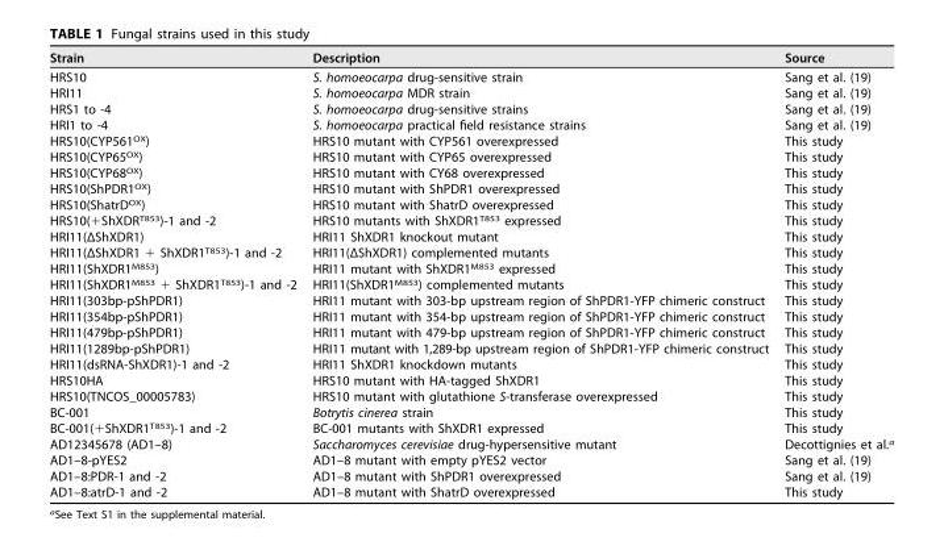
<table><thead><tr><td>Strain</td><td>Description</td><td>Source</td></tr></thead><tbody><tr><td>HRS10</td><td>S. homoeocarpa drug-sensitive strain</td><td>Sang et al. (19)</td></tr><tr><td>HRI11</td><td>S. homoeocarpa MDR strain</td><td>Sang et al. (19)</td></tr><tr><td>HRS1 to -4</td><td>S. homoeocarpa drug-sensitive strains</td><td>Sang et al. (19)</td></tr><tr><td>HRI1 to -4</td><td>S. homoeocarpa practical field resistance strains</td><td>Sang et al. (19)</td></tr><tr><td>HRS10(CYP561<sup>OX</sup>)</td><td>HRS10 mutant with CYP561 overexpressed</td><td>This study</td></tr><tr><td>HRS10(CYP65<sup>OX</sup>)</td><td>HRS10 mutant with CYP65 overexpressed</td><td>This study</td></tr><tr><td>HRS10(CYP68<sup>OX</sup>)</td><td>HRS10 mutant with CY68 overexpressed</td><td>This study</td></tr><tr><td>HRS10(ShPDR1<sup>OX</sup>)</td><td>HRS10 mutant with ShPDR1 overexpressed</td><td>This study</td></tr><tr><td>HRS10(ShatrD<sup>OX</sup>)</td><td>HRS10 mutant with ShatrD overexpressed</td><td>This study</td></tr><tr><td>HRS10(+ShXDR<sup>T853</sup>)-1 and -2</td><td>HRS10 mutants with ShXDR1<sup>T853</sup> expressed</td><td>This study</td></tr><tr><td>HRI11(ΔShXDR1)</td><td>HRI11 ShXDR1 knockout mutant</td><td>This study</td></tr><tr><td>HRI11(ΔShXDR1 + ShXDR1T853)-1 and -2</td><td>HRI11(ΔShXDR1) complemented mutants</td><td>This study</td></tr><tr><td>HRI11(ShXDR1<sup>M853</sup>)</td><td>HRI11 mutant with ShXDR1<sup>M853</sup> expressed</td><td>This study</td></tr><tr><td>HRI11(ShXDR1<sup>M853</sup> + ShXDR1<sup>T853</sup>)-1 and -2</td><td>HRI11(ShXDR1<sup>M853</sup>) complemented mutants</td><td>This study</td></tr><tr><td>HRI11(303bp-pShPDR1)</td><td>HRI11 mutant with 303-bp upstream region of ShPDR1-YFP chimeric construct</td><td>This study</td></tr><tr><td>HRI11(354bp-pShPDR1)</td><td>HRI11 mutant with 354-bp upstream region of ShPDR1-YFP chimeric construct</td><td>This study</td></tr><tr><td>HRI11(479bp-pShPDR1)</td><td>HRI11 mutant with 479-bp upstream region of ShPDR1-YFP chimeric construct</td><td>This study</td></tr><tr><td>HRI11(1289bp-pShPDR1)</td><td>HRI11 mutant with 1,289-bp upstream region of ShPDR1-YFP chimeric construct</td><td>This study</td></tr><tr><td>HRI11(dsRNA-ShXDR1)-1 and -2</td><td>HRI11 ShXDR1 knockdown mutants</td><td>This study</td></tr><tr><td>HRS10HA</td><td>HRS10 mutant with HA-tagged ShXDR1</td><td>This study</td></tr><tr><td>HRS10(TNCOS_00005783)</td><td>HRS10 mutant with glutathione S-transferase overexpressed</td><td>This study</td></tr><tr><td>BC-001</td><td>Botrytis cinerea strain</td><td>This study</td></tr><tr><td>BC-001(+ShXDR1<sup>T853</sup>)-1 and -2</td><td>BC-001 mutants with ShXDR1 expressed</td><td>This study</td></tr><tr><td>AD12345678 (AD1–8)</td><td>Saccharomyces cerevisiae drug-hypersensitive mutant</td><td>Decottignies et al.<sup>a</sup></td></tr><tr><td>AD1–8-pYES2</td><td>AD1–8 mutant with empty pYES2 vector</td><td>Sang et al. (19)</td></tr><tr><td>AD1–8:PDR-1 and -2</td><td>AD1–8 mutant with ShPDR1 overexpressed</td><td>Sang et al. (19)</td></tr><tr><td>AD1–8:atrD-1 and -2</td><td>AD1–8 mutant with ShatrD overexpressed</td><td>This study</td></tr></tbody></table>